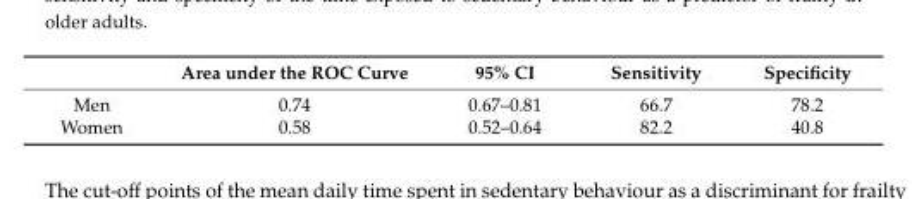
<table><thead><tr><td></td><td>Area under the ROC Curve</td><td>95% CI</td><td>Sensitivity</td><td>Specificity</td></tr></thead><tbody><tr><td>Men</td><td>0.74</td><td>0.67–0.81</td><td>66.7</td><td>78.2</td></tr><tr><td>Women</td><td>0.58</td><td>0.52–0.64</td><td>82.2</td><td>40.8</td></tr></tbody></table>